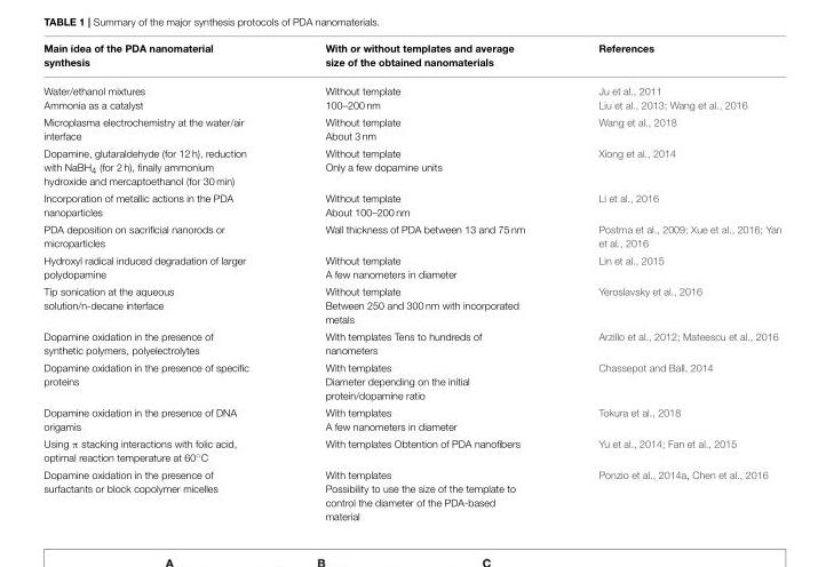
<table><thead><tr><td>Main idea of the PDA nanomaterial synthesis</td><td>With or without templates and average size of the obtained nanomaterials</td><td>References</td></tr></thead><tbody><tr><td>Water/ethanol mixtures Ammonia as a catalyst</td><td>Without template 100–200 nm</td><td>Ju et al., 2011 Liu et al., 2013; Wang et al., 2016</td></tr><tr><td>Microplasma electrochemistry at the water/air interface</td><td>Without template About 3 nm</td><td>Wang et al., 2018</td></tr><tr><td>Dopamine, glutaraldehyde (for 12 h), reduction with NaBH<sub>4</sub> (for 2 h), finally ammonium hydroxide and mercaptoethanol (for 30 min)</td><td>Without template Only a few dopamine units</td><td>Xiong et al., 2014</td></tr><tr><td>Incorporation of metallic actions in the PDA nanoparticles</td><td>Without template About 100–200 nm</td><td>Li et al., 2016</td></tr><tr><td>PDA deposition on sacrificial nanorods or microparticles</td><td>Wall thickness of PDA between 13 and 75 nm</td><td>Postma et al., 2009; Xue et al., 2016; Yan et al., 2016</td></tr><tr><td>Hydroxyl radical induced degradation of larger polydopamine</td><td>Without template A few nanometers in diameter</td><td>Lin et al., 2015</td></tr><tr><td>Tip sonication at the aqueous solution/n-decane interface</td><td>Without template Between 250 and 300 nm with incorporated metals</td><td>Yeroslavsky et al., 2016</td></tr><tr><td>Dopamine oxidation in the presence of synthetic polymers, polyelectrolytes</td><td>With templates Tens to hundreds of nanometers</td><td>Arzillo et al., 2012; Mateescu et al., 2016</td></tr><tr><td>Dopamine oxidation in the presence of specific proteins</td><td>With templates Diameter depending on the initial protein/dopamine ratio</td><td>Chassepot and Ball, 2014</td></tr><tr><td>Dopamine oxidation in the presence of DNA origamis</td><td>With templates A few nanometers in diameter</td><td>Tokura et al., 2018</td></tr><tr><td>Using π stacking interactions with folic acid, optimal reaction temperature at 60◦C</td><td>With templates Obtention of PDA nanofibers</td><td>Yu et al., 2014; Fan et al., 2015</td></tr><tr><td>Dopamine oxidation in the presence of surfactants or block copolymer micelles</td><td>With templates Possibility to use the size of the template to control the diameter of the PDA-based material</td><td>Ponzio et al., 2014a, Chen et al., 2016</td></tr></tbody></table>